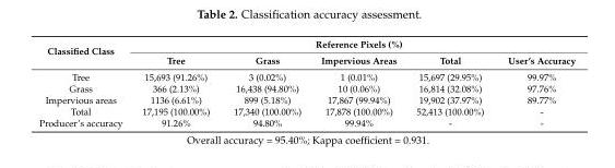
<table><thead><tr><td rowspan="2">Classified Class</td><td colspan="5">Reference Pixels (%)</td></tr><tr><td>Tree</td><td>Grass</td><td>Impervious Areas</td><td>Total</td><td>User’s Accuracy</td></tr></thead><tbody><tr><td>Tree</td><td>15,693 (91.26%)</td><td>3 (0.02%)</td><td>1 (0.01%)</td><td>15,697 (29.95%)</td><td>99.97%</td></tr><tr><td>Grass</td><td>366 (2.13%)</td><td>16,438 (94.80%)</td><td>10 (0.06%)</td><td>16,814 (32.08%)</td><td>97.76%</td></tr><tr><td>Impervious areas</td><td>1136 (6.61%)</td><td>899 (5.18%)</td><td>17,867 (99.94%)</td><td>19,902 (37.97%)</td><td>89.77%</td></tr><tr><td>Total</td><td>17,195 (100.00%)</td><td>17,340 (100.00%)</td><td>17,878 (100.00%)</td><td>52,413 (100.00%)</td><td>-</td></tr><tr><td>Producer’s accuracy</td><td>91.26%</td><td>94.80%</td><td>99.94%</td><td>-</td><td>-</td></tr></tbody></table>